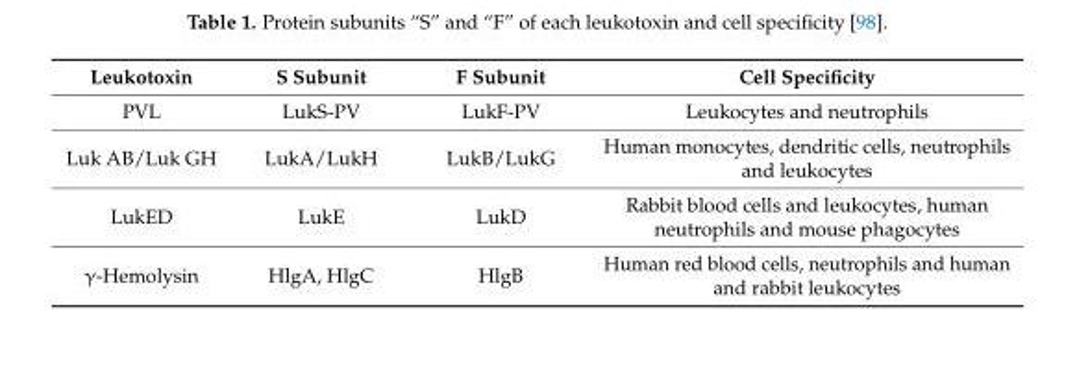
<table><thead><tr><td>Leukotoxin</td><td>S Subunit</td><td>F Subunit</td><td>Cell Specificity</td></tr></thead><tbody><tr><td>PVL</td><td>LukS-PV</td><td>LukF-PV</td><td>Leukocytes and neutrophils</td></tr><tr><td>Luk AB/Luk GH</td><td>LukA/LukH</td><td>LukB/LukG</td><td>Human monocytes, dendritic cells, neutrophils and leukocytes</td></tr><tr><td>LukED</td><td>LukE</td><td>LukD</td><td>Rabbit blood cells and leukocytes, human neutrophils and mouse phagocytes</td></tr><tr><td>γ-Hemolysin</td><td>HlgA, HlgC</td><td>HlgB</td><td>Human red blood cells, neutrophils and human and rabbit leukocytes</td></tr></tbody></table>